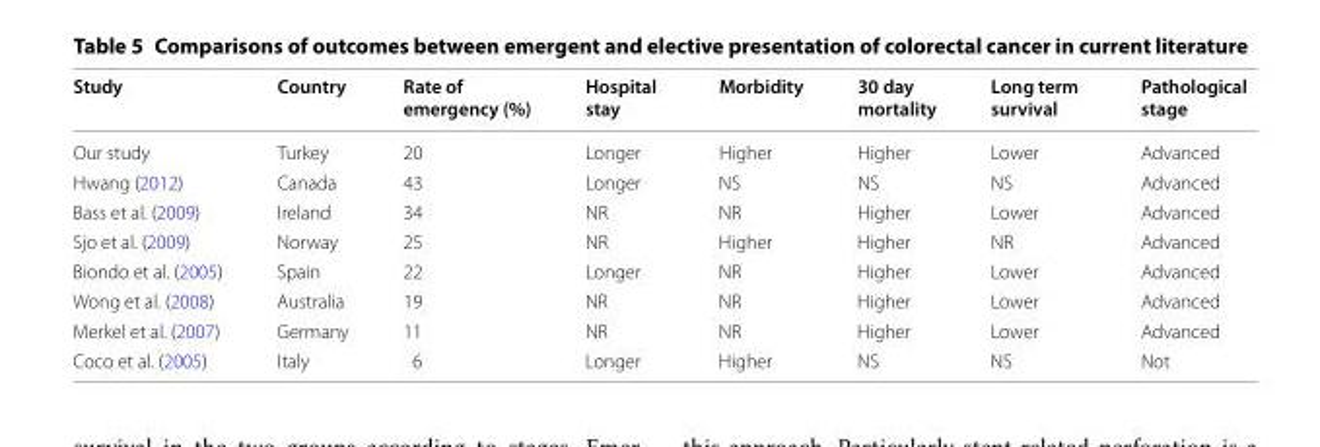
<table><thead><tr><td>Study</td><td>Country</td><td>Rate of emergency (%)</td><td>Hospital stay</td><td>Morbidity</td><td>30 day mortality</td><td>Long term survival</td><td>Pathological stage</td></tr></thead><tbody><tr><td>Our study</td><td>Turkey</td><td>20</td><td>Longer</td><td>Higher</td><td>Higher</td><td>Lower</td><td>Advanced</td></tr><tr><td>Hwang (2012)</td><td>Canada</td><td>43</td><td>Longer</td><td>NS</td><td>NS</td><td>NS</td><td>Advanced</td></tr><tr><td>Bass et al. (2009)</td><td>Ireland</td><td>34</td><td>NR</td><td>NR</td><td>Higher</td><td>Lower</td><td>Advanced</td></tr><tr><td>Sjo et al. (2009)</td><td>Norway</td><td>25</td><td>NR</td><td>Higher</td><td>Higher</td><td>NR</td><td>Advanced</td></tr><tr><td>Biondo et al. (2005)</td><td>Spain</td><td>22</td><td>Longer</td><td>NR</td><td>Higher</td><td>Lower</td><td>Advanced</td></tr><tr><td>Wong et al. (2008)</td><td>Australia</td><td>19</td><td>NR</td><td>NR</td><td>Higher</td><td>Lower</td><td>Advanced</td></tr><tr><td>Merkel et al. (2007)</td><td>Germany</td><td>11</td><td>NR</td><td>NR</td><td>Higher</td><td>Lower</td><td>Advanced</td></tr><tr><td>Coco et al. (2005)</td><td>Italy</td><td>6</td><td>Longer</td><td>Higher</td><td>NS</td><td>NS</td><td>Not</td></tr></tbody></table>